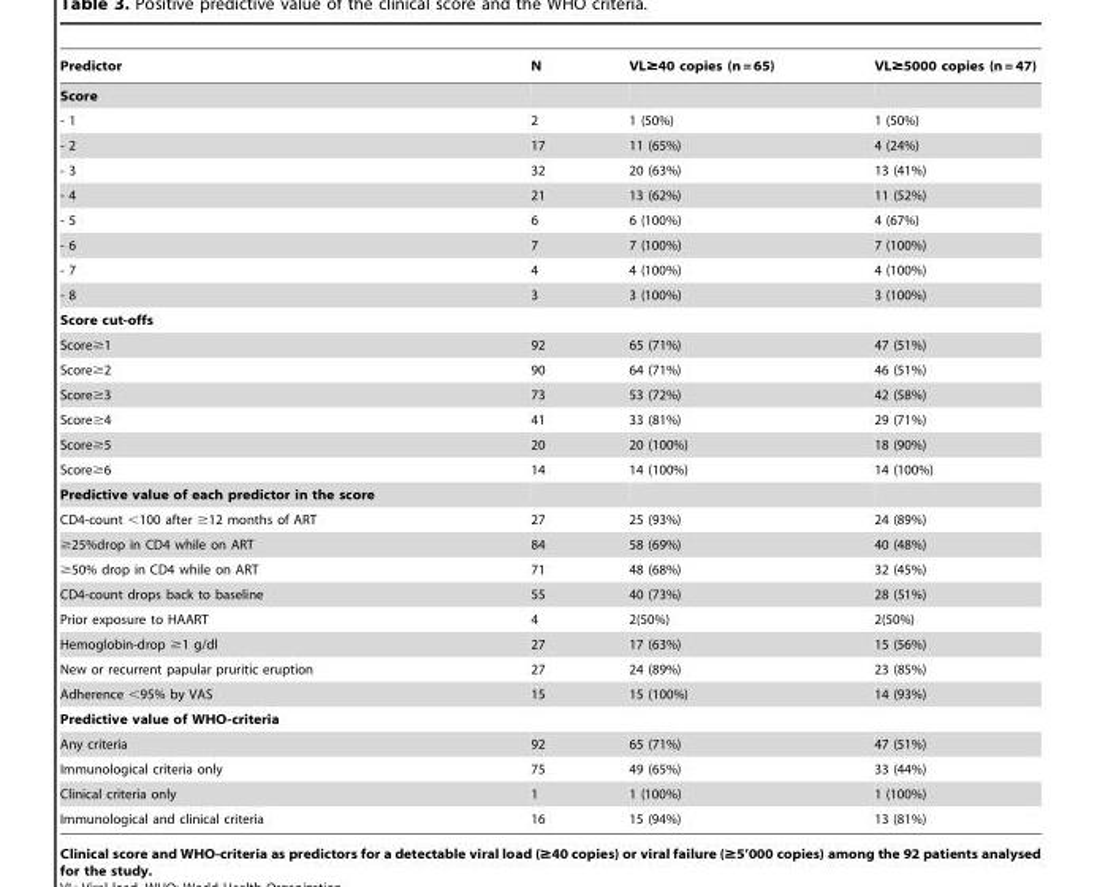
<table><thead><tr><td>Predictor</td><td>N</td><td>VL≥40 copies (n = 65)</td><td>VL≥5000 copies (n = 47)</td></tr></thead><tbody><tr><td colspan="4">Score</td></tr><tr><td>- 1</td><td>2</td><td>1 (50%)</td><td>1 (50%)</td></tr><tr><td>- 2</td><td>17</td><td>11 (65%)</td><td>4 (24%)</td></tr><tr><td>- 3</td><td>32</td><td>20 (63%)</td><td>13 (41%)</td></tr><tr><td>- 4</td><td>21</td><td>13 (62%)</td><td>11 (52%)</td></tr><tr><td>- 5</td><td>6</td><td>6 (100%)</td><td>4 (67%)</td></tr><tr><td>- 6</td><td>7</td><td>7 (100%)</td><td>7 (100%)</td></tr><tr><td>- 7</td><td>4</td><td>4 (100%)</td><td>4 (100%)</td></tr><tr><td>- 8</td><td>3</td><td>3 (100%)</td><td>3 (100%)</td></tr><tr><td colspan="4">Score cut-offs</td></tr><tr><td>Score≥1</td><td>92</td><td>65 (71%)</td><td>47 (51%)</td></tr><tr><td>Score≥2</td><td>90</td><td>64 (71%)</td><td>46 (51%)</td></tr><tr><td>Score≥3</td><td>73</td><td>53 (72%)</td><td>42 (58%)</td></tr><tr><td>Score≥4</td><td>41</td><td>33 (81%)</td><td>29 (71%)</td></tr><tr><td>Score≥5</td><td>20</td><td>20 (100%)</td><td>18 (90%)</td></tr><tr><td>Score≥6</td><td>14</td><td>14 (100%)</td><td>14 (100%)</td></tr><tr><td colspan="4">Predictive value of each predictor in the score</td></tr><tr><td>CD4-count &lt;100 after ≥12 months of ART</td><td>27</td><td>25 (93%)</td><td>24 (89%)</td></tr><tr><td>≥25%drop in CD4 while on ART</td><td>84</td><td>58 (69%)</td><td>40 (48%)</td></tr><tr><td>≥50% drop in CD4 while on ART</td><td>71</td><td>48 (68%)</td><td>32 (45%)</td></tr><tr><td>CD4-count drops back to baseline</td><td>55</td><td>40 (73%)</td><td>28 (51%)</td></tr><tr><td>Prior exposure to HAART</td><td>4</td><td>2(50%)</td><td>2(50%)</td></tr><tr><td>Hemoglobin-drop ≥1 g/dl</td><td>27</td><td>17 (63%)</td><td>15 (56%)</td></tr><tr><td>New or recurrent papular pruritic eruption</td><td>27</td><td>24 (89%)</td><td>23 (85%)</td></tr><tr><td>Adherence &lt;95% by VAS</td><td>15</td><td>15 (100%)</td><td>14 (93%)</td></tr><tr><td colspan="4">Predictive value of WHO-criteria</td></tr><tr><td>Any criteria</td><td>92</td><td>65 (71%)</td><td>47 (51%)</td></tr><tr><td>Immunological criteria only</td><td>75</td><td>49 (65%)</td><td>33 (44%)</td></tr><tr><td>Clinical criteria only</td><td>1</td><td>1 (100%)</td><td>1 (100%)</td></tr><tr><td>Immunological and clinical criteria</td><td>16</td><td>15 (94%)</td><td>13 (81%)</td></tr></tbody></table>